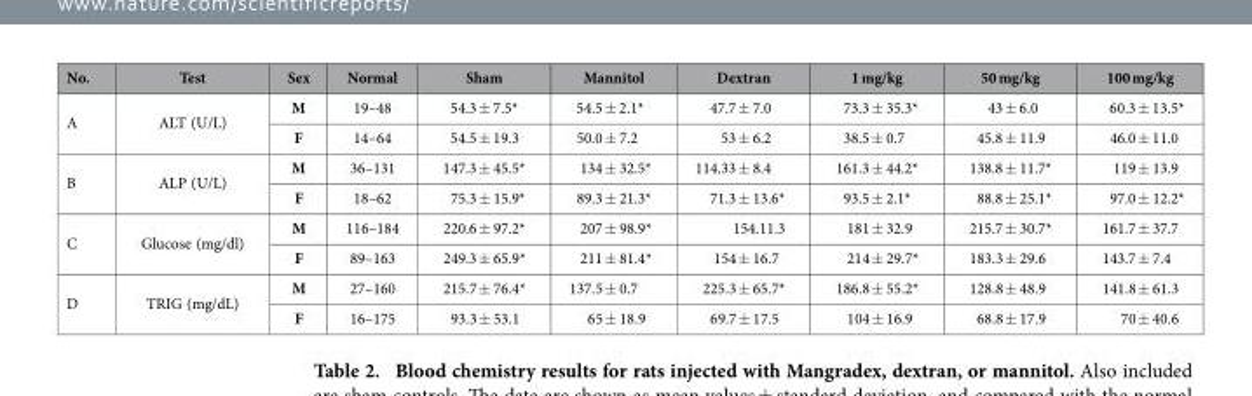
<table><thead><tr><td>No.</td><td>Test</td><td>Sex</td><td>Normal</td><td>Sham</td><td>Mannitol</td><td>Dextran</td><td>1 mg/kg</td><td>50 mg/kg</td><td>100 mg/kg</td></tr></thead><tbody><tr><td rowspan="2">A</td><td rowspan="2">ALT (U/L)</td><td>M</td><td>19–48</td><td>54.3 ± 7.5*</td><td>54.5 ± 2.1*</td><td>47.7 ± 7.0</td><td>73.3 ± 35.3*</td><td>43 ± 6.0</td><td>60.3 ± 13.5*</td></tr><tr><td>F</td><td>14–64</td><td>54.5 ± 19.3</td><td>50.0 ± 7.2</td><td>53 ± 6.2</td><td>38.5 ± 0.7</td><td>45.8 ± 11.9</td><td>46.0 ± 11.0</td></tr><tr><td rowspan="2">B</td><td rowspan="2">ALP (U/L)</td><td>M</td><td>36–131</td><td>147.3 ± 45.5*</td><td>134 ± 32.5*</td><td>114.33 ± 8.4</td><td>161.3 ± 44.2*</td><td>138.8 ± 11.7*</td><td>119 ± 13.9</td></tr><tr><td>F</td><td>18–62</td><td>75.3 ± 15.9*</td><td>89.3 ± 21.3*</td><td>71.3 ± 13.6*</td><td>93.5 ± 2.1*</td><td>88.8 ± 25.1*</td><td>97.0 ± 12.2*</td></tr><tr><td rowspan="2">C</td><td rowspan="2">Glucose (mg/dl)</td><td>M</td><td>116–184</td><td>220.6 ± 97.2*</td><td>207 ± 98.9*</td><td>154.11.3</td><td>181 ± 32.9</td><td>215.7 ± 30.7*</td><td>161.7 ± 37.7</td></tr><tr><td>F</td><td>89–163</td><td>249.3 ± 65.9*</td><td>211 ± 81.4*</td><td>154 ± 16.7</td><td>214 ± 29.7*</td><td>183.3 ± 29.6</td><td>143.7 ± 7.4</td></tr><tr><td rowspan="2">D</td><td rowspan="2">TRIG (mg/dL)</td><td>M</td><td>27–160</td><td>215.7 ± 76.4*</td><td>137.5 ± 0.7</td><td>225.3 ± 65.7*</td><td>186.8 ± 55.2*</td><td>128.8 ± 48.9</td><td>141.8 ± 61.3</td></tr><tr><td>F</td><td>16–175</td><td>93.3 ± 53.1</td><td>65 ± 18.9</td><td>69.7 ± 17.5</td><td>104 ± 16.9</td><td>68.8 ± 17.9</td><td>70 ± 40.6</td></tr></tbody></table>